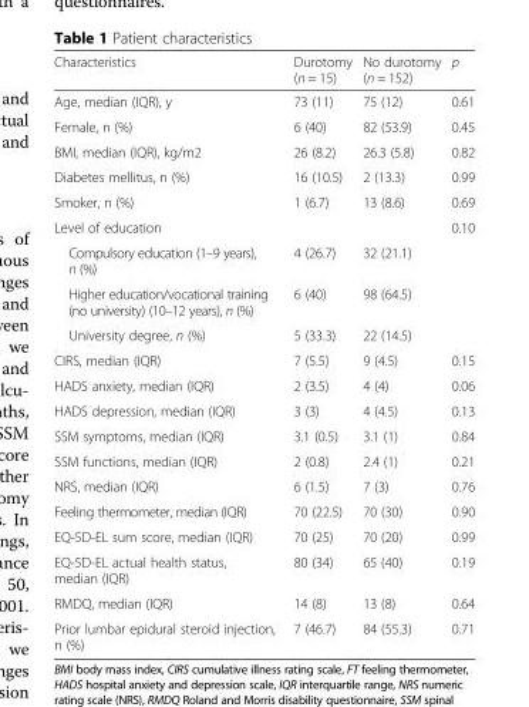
<table><thead><tr><td>Characteristics</td><td>Durotomy (n = 15)</td><td>No durotomy (n = 152)</td><td>p</td></tr></thead><tbody><tr><td>Age, median (IQR), y</td><td>73 (11)</td><td>75 (12)</td><td>0.61</td></tr><tr><td>Female, n (%)</td><td>6 (40)</td><td>82 (53.9)</td><td>0.45</td></tr><tr><td>BMI, median (IQR), kg/m2</td><td>26 (8.2)</td><td>26.3 (5.8)</td><td>0.82</td></tr><tr><td>Diabetes mellitus, n (%)</td><td>16 (10.5)</td><td>2 (13.3)</td><td>0.99</td></tr><tr><td>Smoker, n (%)</td><td>1 (6.7)</td><td>13 (8.6)</td><td>0.69</td></tr><tr><td>Level of education</td><td></td><td></td><td>0.10</td></tr><tr><td>Compulsory education (1–9 years), n (%)</td><td>4 (26.7)</td><td>32 (21.1)</td><td></td></tr><tr><td>Higher education/vocational training (no university) (10–12 years), n (%)</td><td>6 (40)</td><td>98 (64.5)</td><td></td></tr><tr><td>University degree, n (%)</td><td>5 (33.3)</td><td>22 (14.5)</td><td></td></tr><tr><td>CIRS, median (IQR)</td><td>7 (5.5)</td><td>9 (4.5)</td><td>0.15</td></tr><tr><td>HADS anxiety, median (IQR)</td><td>2 (3.5)</td><td>4 (4)</td><td>0.06</td></tr><tr><td>HADS depression, median (IQR)</td><td>3 (3)</td><td>4 (4.5)</td><td>0.13</td></tr><tr><td>SSM symptoms, median (IQR)</td><td>3.1 (0.5)</td><td>3.1 (1)</td><td>0.84</td></tr><tr><td>SSM functions, median (IQR)</td><td>2 (0.8)</td><td>2.4 (1)</td><td>0.21</td></tr><tr><td>NRS, median (IQR)</td><td>6 (1.5)</td><td>7 (3)</td><td>0.76</td></tr><tr><td>Feeling thermometer, median (IQR)</td><td>70 (22.5)</td><td>70 (30)</td><td>0.90</td></tr><tr><td>EQ-5D-EL sum score, median (IQR)</td><td>70 (25)</td><td>70 (20)</td><td>0.99</td></tr><tr><td>EQ-5D-EL actual health status, median (IQR)</td><td>80 (34)</td><td>65 (40)</td><td>0.19</td></tr><tr><td>RMDQ, median (IQR)</td><td>14 (8)</td><td>13 (8)</td><td>0.64</td></tr><tr><td>Prior lumbar epidural steroid injection, n (%)</td><td>7 (46.7)</td><td>84 (55.3)</td><td>0.71</td></tr></tbody></table>